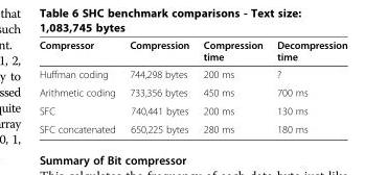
<table><thead><tr><td>Compressor</td><td>Compression</td><td>Compression time</td><td>Decompression time</td></tr></thead><tbody><tr><td>Huffman coding</td><td>744,298 bytes</td><td>200 ms</td><td>?</td></tr><tr><td>Arithmetic coding</td><td>733,356 bytes</td><td>450 ms</td><td>700 ms</td></tr><tr><td>SFC</td><td>740,441 bytes</td><td>200 ms</td><td>130 ms</td></tr><tr><td>SFC concatenated</td><td>650,225 bytes</td><td>280 ms</td><td>180 ms</td></tr></tbody></table>